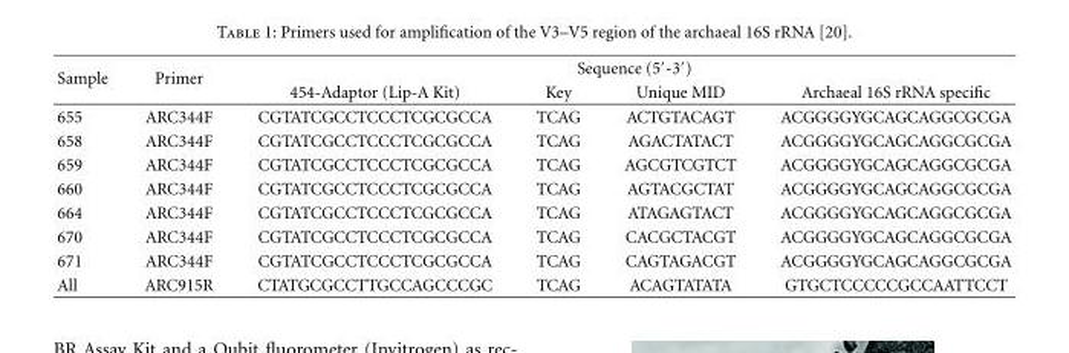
<table><thead><tr><td rowspan="2">Sample</td><td rowspan="2">Primer</td><td colspan="4">Sequence (5′-3′)</td></tr><tr><td>454-Adaptor (Lip-A Kit)</td><td>Key</td><td>Unique MID</td><td>Archaeal 16S rRNA specific</td></tr></thead><tbody><tr><td>655</td><td>ARC344F</td><td>CGTATCGCCTCCCTCGCGCCA</td><td>TCAG</td><td>ACTGTACAGT</td><td>ACGGGGYGCAGCAGGCGCGA</td></tr><tr><td>658</td><td>ARC344F</td><td>CGTATCGCCTCCCTCGCGCCA</td><td>TCAG</td><td>AGACTATACT</td><td>ACGGGGYGCAGCAGGCGCGA</td></tr><tr><td>659</td><td>ARC344F</td><td>CGTATCGCCTCCCTCGCGCCA</td><td>TCAG</td><td>AGCGTCGTCT</td><td>ACGGGGYGCAGCAGGCGCGA</td></tr><tr><td>660</td><td>ARC344F</td><td>CGTATCGCCTCCCTCGCGCCA</td><td>TCAG</td><td>AGTACGCTAT</td><td>ACGGGGYGCAGCAGGCGCGA</td></tr><tr><td>664</td><td>ARC344F</td><td>CGTATCGCCTCCCTCGCGCCA</td><td>TCAG</td><td>ATAGAGTACT</td><td>ACGGGGYGCAGCAGGCGCGA</td></tr><tr><td>670</td><td>ARC344F</td><td>CGTATCGCCTCCCTCGCGCCA</td><td>TCAG</td><td>CACGCTACGT</td><td>ACGGGGYGCAGCAGGCGCGA</td></tr><tr><td>671</td><td>ARC344F</td><td>CGTATCGCCTCCCTCGCGCCA</td><td>TCAG</td><td>CAGTAGACGT</td><td>ACGGGGYGCAGCAGGCGCGA</td></tr><tr><td>All</td><td>ARC915R</td><td>CTATGCGCCTTGCCAGCCCGC</td><td>TCAG</td><td>ACAGTATATA</td><td>GTGCTCCCCCGCCAATTCCT</td></tr></tbody></table>